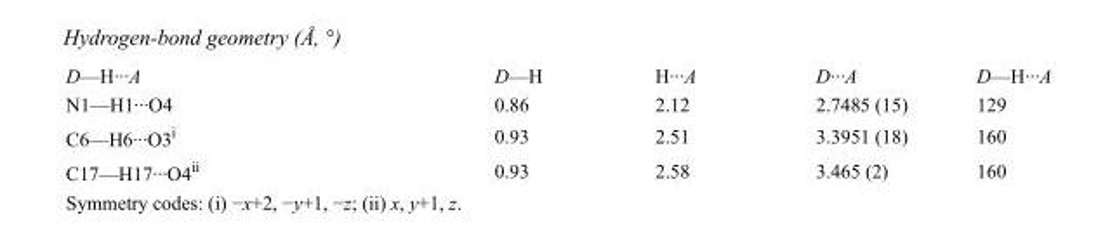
<table><tbody><tr><td>D—H···A</td><td>D—H</td><td>H···A</td><td>D···A</td><td>D—H···A</td></tr><tr><td>N1—H1···O4</td><td>0.86</td><td>2.12</td><td>2.7485 (15)</td><td>129</td></tr><tr><td>C6—H6···O3<sup>i</sup></td><td>0.93</td><td>2.51</td><td>3.3951 (18)</td><td>160</td></tr><tr><td>C17—H17···O4<sup>ii</sup></td><td>0.93</td><td>2.58</td><td>3.465 (2)</td><td>160</td></tr></tbody></table>